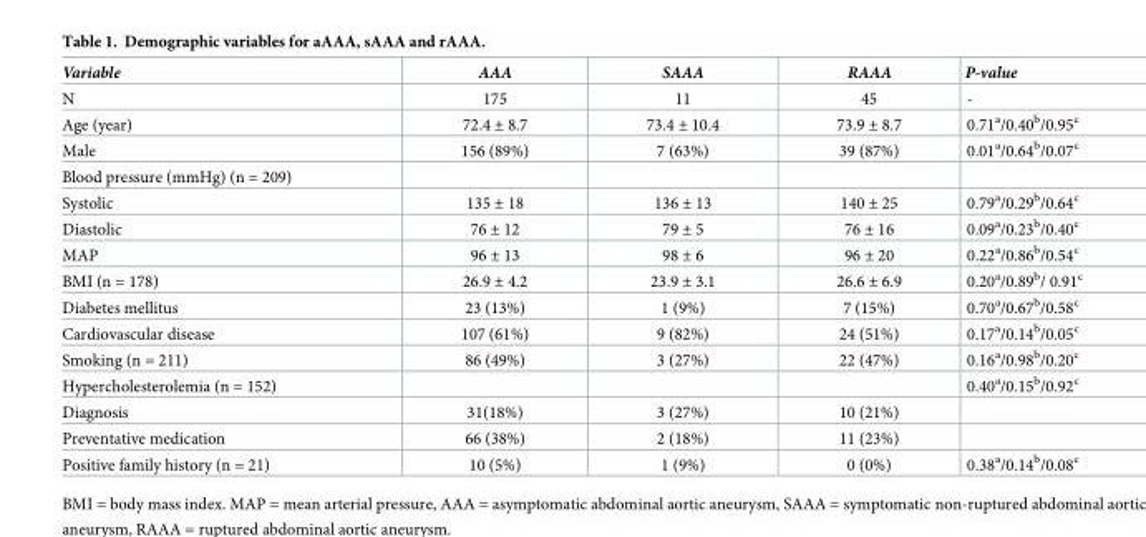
<table><thead><tr><td>Variable</td><td>AAA</td><td>SAAA</td><td>RAAA</td><td>P-value</td></tr></thead><tbody><tr><td>N</td><td>175</td><td>11</td><td>45</td><td>-</td></tr><tr><td>Age (year)</td><td>72.4 ± 8.7</td><td>73.4 ± 10.4</td><td>73.9 ± 8.7</td><td>0.71<sup>a</sup>/0.40<sup>b</sup>/0.95<sup>c</sup></td></tr><tr><td>Male</td><td>156 (89%)</td><td>7 (63%)</td><td>39 (87%)</td><td>0.01<sup>a</sup>/0.64<sup>b</sup>/0.07<sup>c</sup></td></tr><tr><td colspan="5">Blood pressure (mmHg) (n = 209)</td></tr><tr><td>Systolic</td><td>135 ± 18</td><td>136 ± 13</td><td>140 ± 25</td><td>0.79<sup>a</sup>/0.29<sup>b</sup>/0.64<sup>c</sup></td></tr><tr><td>Diastolic</td><td>76 ± 12</td><td>79 ± 5</td><td>76 ± 16</td><td>0.09<sup>a</sup>/0.23<sup>b</sup>/0.40<sup>c</sup></td></tr><tr><td>MAP</td><td>96 ± 13</td><td>98 ± 6</td><td>96 ± 20</td><td>0.22<sup>a</sup>/0.86<sup>b</sup>/0.54<sup>c</sup></td></tr><tr><td>BMI (n = 178)</td><td>26.9 ± 4.2</td><td>23.9 ± 3.1</td><td>26.6 ± 6.9</td><td>0.20<sup>a</sup>/0.89<sup>b</sup>/ 0.91<sup>c</sup></td></tr><tr><td>Diabetes mellitus</td><td>23 (13%)</td><td>1 (9%)</td><td>7 (15%)</td><td>0.70<sup>a</sup>/0.67<sup>b</sup>/0.58<sup>c</sup></td></tr><tr><td>Cardiovascular disease</td><td>107 (61%)</td><td>9 (82%)</td><td>24 (51%)</td><td>0.17<sup>a</sup>/0.14<sup>b</sup>/0.05<sup>c</sup></td></tr><tr><td>Smoking (n = 211)</td><td>86 (49%)</td><td>3 (27%)</td><td>22 (47%)</td><td>0.16<sup>a</sup>/0.98<sup>b</sup>/0.20<sup>c</sup></td></tr><tr><td>Hypercholesterolemia (n = 152)</td><td></td><td></td><td></td><td>0.40<sup>a</sup>/0.15<sup>b</sup>/0.92<sup>c</sup></td></tr><tr><td>Diagnosis</td><td>31(18%)</td><td>3 (27%)</td><td>10 (21%)</td><td></td></tr><tr><td>Preventative medication</td><td>66 (38%)</td><td>2 (18%)</td><td>11 (23%)</td><td></td></tr><tr><td>Positive family history (n = 21)</td><td>10 (5%)</td><td>1 (9%)</td><td>0 (0%)</td><td>0.38<sup>a</sup>/0.14<sup>b</sup>/0.08<sup>c</sup></td></tr></tbody></table>